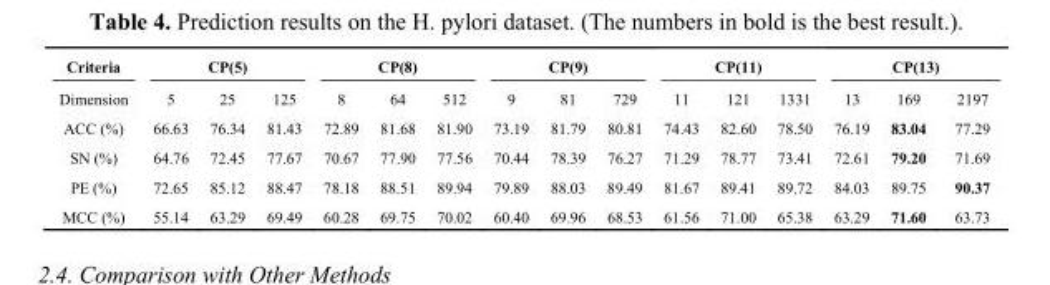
<table><thead><tr><td rowspan="2">Criteria Dimension</td><td colspan="3">CP(5)</td><td colspan="3">CP(8)</td><td colspan="3">CP(9)</td><td colspan="3">CP(11)</td><td colspan="3">CP(13)</td></tr><tr><td>5</td><td>25</td><td>125</td><td>8</td><td>64</td><td>512</td><td>9</td><td>81</td><td>729</td><td>11</td><td>121</td><td>1331</td><td>13</td><td>169</td><td>2197</td></tr></thead><tbody><tr><td>ACC (%)</td><td>66.63</td><td>76.34</td><td>81.43</td><td>72.89</td><td>81.68</td><td>81.90</td><td>73.19</td><td>81.79</td><td>80.81</td><td>74.43</td><td>82.60</td><td>78.50</td><td>76.19</td><td>83.04</td><td>77.29</td></tr><tr><td>SN (%)</td><td>64.76</td><td>72.45</td><td>77.67</td><td>70.67</td><td>77.90</td><td>77.56</td><td>70.44</td><td>78.39</td><td>76.27</td><td>71.29</td><td>78.77</td><td>73.41</td><td>72.61</td><td>79.20</td><td>71.69</td></tr><tr><td>PE (%)</td><td>72.65</td><td>85.12</td><td>88.47</td><td>78.18</td><td>88.51</td><td>89.94</td><td>79.89</td><td>88.03</td><td>89.49</td><td>81.67</td><td>89.41</td><td>89.72</td><td>84.03</td><td>89.75</td><td>90.37</td></tr><tr><td>MCC (%)</td><td>55.14</td><td>63.29</td><td>69.49</td><td>60.28</td><td>69.75</td><td>70.02</td><td>60.40</td><td>69.96</td><td>68.53</td><td>61.56</td><td>71.00</td><td>65.38</td><td>63.29</td><td>71.60</td><td>63.73</td></tr></tbody></table>